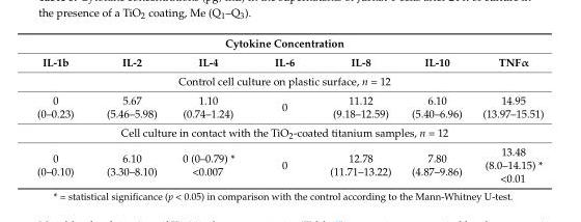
<table><thead><tr><td colspan="7">Cytokine Concentration</td></tr><tr><td>IL-1b</td><td>IL-2</td><td>IL-4</td><td>IL-6</td><td>IL-8</td><td>IL-10</td><td>TNFα</td></tr></thead><tbody><tr><td colspan="7">Control cell culture on plastic surface, n = 12</td></tr><tr><td>0 (0–0.23)</td><td>5.67 (5.46–5.98)</td><td>1.10 (0.74–1.24)</td><td>0</td><td>11.12 (9.18–12.59)</td><td>6.10 (5.40–6.96)</td><td>14.95 (13.97–15.51)</td></tr><tr><td colspan="7">Cell culture in contact with the TiO<sub>2</sub>-coated titanium samples, n = 12</td></tr><tr><td>0 (0–0.10)</td><td>6.10 (3.30–8.10)</td><td>0 (0–0.79) * &lt;0.007</td><td>0</td><td>12.78 (11.71–13.22)</td><td>7.80 (4.87–9.86)</td><td>13.48 (8.0–14.15) * &lt;0.01</td></tr></tbody></table>